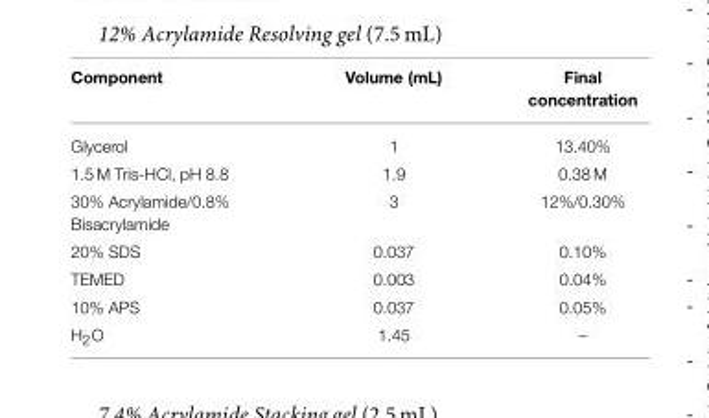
<table><thead><tr><td>Component</td><td>Volume (mL)</td><td>Final concentration</td></tr></thead><tbody><tr><td>Glycerol</td><td>1</td><td>13.40%</td></tr><tr><td>1.5 M Tris-HCl, pH 8.8</td><td>1.9</td><td>0.38 M</td></tr><tr><td>30% Acrylamide/0.8% Bisacrylamide</td><td>3</td><td>12%/0.30%</td></tr><tr><td>20% SDS</td><td>0.037</td><td>0.10%</td></tr><tr><td>TEMED</td><td>0.003</td><td>0.04%</td></tr><tr><td>10% APS</td><td>0.037</td><td>0.05%</td></tr><tr><td>H<sub>2</sub>O</td><td>1.45</td><td>–</td></tr></tbody></table>